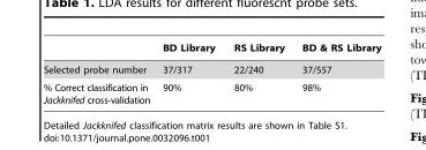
<table><thead><tr><td></td><td>BD Library</td><td>RS Library</td><td>BD &amp; RS Library</td></tr></thead><tbody><tr><td>Selected probe number</td><td>37/317</td><td>22/240</td><td>37/557</td></tr><tr><td>% Correct classification in Jackknifed cross-validation</td><td>90%</td><td>80%</td><td>98%</td></tr></tbody></table>